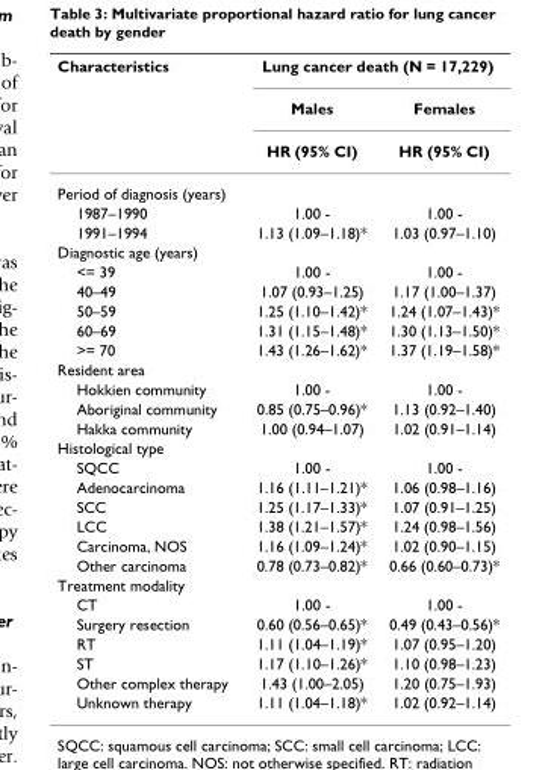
<table><thead><tr><td rowspan="3">Characteristics</td><td colspan="2">Lung cancer death (N = 17,229)</td></tr><tr><td rowspan="2">Males HR (95% CI)</td><td rowspan="2">Females HR (95% CI)</td></tr><tr></tr></thead><tbody><tr><td colspan="3">Period of diagnosis (years)</td></tr><tr><td>1987–1990</td><td>1.00 -</td><td>1.00 -</td></tr><tr><td>1991–1994</td><td>1.13 (1.09–1.18)*</td><td>1.03 (0.97–1.10)</td></tr><tr><td colspan="3">Diagnostic age (years)</td></tr><tr><td>&lt;= 39</td><td>1.00 -</td><td>1.00 -</td></tr><tr><td>40–49</td><td>1.07 (0.93–1.25)</td><td>1.17 (1.00–1.37)</td></tr><tr><td>50–59</td><td>1.25 (1.10–1.42)*</td><td>1.24 (1.07–1.43)*</td></tr><tr><td>60–69</td><td>1.31 (1.15–1.48)*</td><td>1.30 (1.13–1.50)*</td></tr><tr><td>&gt;= 70</td><td>1.43 (1.26–1.62)*</td><td>1.37 (1.19–1.58)*</td></tr><tr><td colspan="3">Resident area</td></tr><tr><td>Hokkien community</td><td>1.00 -</td><td>1.00 -</td></tr><tr><td>Aboriginal community</td><td>0.85 (0.75–0.96)*</td><td>1.13 (0.92–1.40)</td></tr><tr><td>Hakka community</td><td>1.00 (0.94–1.07)</td><td>1.02 (0.91–1.14)</td></tr><tr><td colspan="3">Histological type</td></tr><tr><td>SQCC</td><td>1.00 -</td><td>1.00 -</td></tr><tr><td>Adenocarcinoma</td><td>1.16 (1.11–1.21)*</td><td>1.06 (0.98–1.16)</td></tr><tr><td>SCC</td><td>1.25 (1.17–1.33)*</td><td>1.07 (0.91–1.25)</td></tr><tr><td>LCC</td><td>1.38 (1.21–1.57)*</td><td>1.24 (0.98–1.56)</td></tr><tr><td>Carcinoma, NOS</td><td>1.16 (1.09–1.24)*</td><td>1.02 (0.90–1.15)</td></tr><tr><td>Other carcinoma</td><td>0.78 (0.73–0.82)*</td><td>0.66 (0.60–0.73)*</td></tr><tr><td colspan="3">Treatment modality</td></tr><tr><td>CT</td><td>1.00 -</td><td>1.00 -</td></tr><tr><td>Surgery resection</td><td>0.60 (0.56–0.65)*</td><td>0.49 (0.43–0.56)*</td></tr><tr><td>RT</td><td>1.11 (1.04–1.19)*</td><td>1.07 (0.95–1.20)</td></tr><tr><td>ST</td><td>1.17 (1.10–1.26)*</td><td>1.10 (0.98–1.23)</td></tr><tr><td>Other complex therapy</td><td>1.43 (1.00–2.05)</td><td>1.20 (0.75–1.93)</td></tr><tr><td>Unknown therapy</td><td>1.11 (1.04–1.18)*</td><td>1.02 (0.92–1.14)</td></tr></tbody></table>